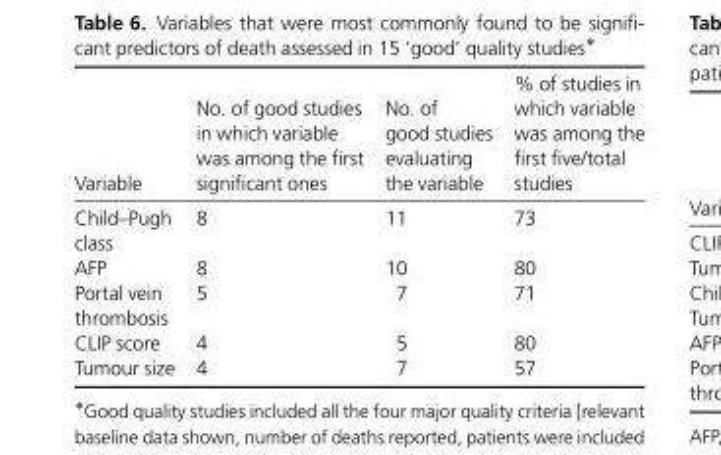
<table><thead><tr><td>Variable</td><td>No. of good studies in which variable was among the first significant ones</td><td>No. of good studies evaluating the variable</td><td>% of studies in which variable was among the first five/total studies</td></tr></thead><tbody><tr><td>Child–Pugh class</td><td>8</td><td>11</td><td>73</td></tr><tr><td>AFP</td><td>8</td><td>10</td><td>80</td></tr><tr><td>Portal vein thrombosis</td><td>5</td><td>7</td><td>71</td></tr><tr><td>CLIP score</td><td>4</td><td>5</td><td>80</td></tr><tr><td>Tumour size</td><td>4</td><td>7</td><td>57</td></tr></tbody></table>